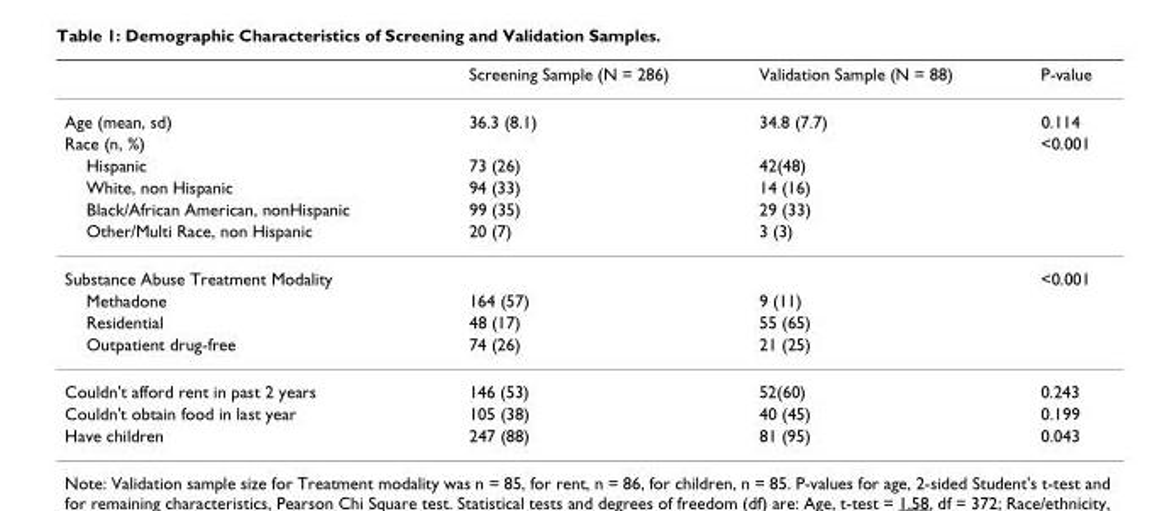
<table><thead><tr><td></td><td>Screening Sample (N = 286)</td><td>Validation Sample (N = 88)</td><td>P-value</td></tr></thead><tbody><tr><td>Age (mean, sd)</td><td>36.3 (8.1)</td><td>34.8 (7.7)</td><td>0.114</td></tr><tr><td>Race (n, %)</td><td></td><td></td><td>&lt;0.001</td></tr><tr><td>Hispanic</td><td>73 (26)</td><td>42(48)</td><td></td></tr><tr><td>White, non Hispanic</td><td>94 (33)</td><td>14 (16)</td><td></td></tr><tr><td>Black/African American, nonHispanic</td><td>99 (35)</td><td>29 (33)</td><td></td></tr><tr><td>Other/Multi Race, non Hispanic</td><td>20 (7)</td><td>3 (3)</td><td></td></tr><tr><td>Substance Abuse Treatment Modality</td><td></td><td></td><td>&lt;0.001</td></tr><tr><td>Methadone</td><td>164 (57)</td><td>9 (11)</td><td></td></tr><tr><td>Residential</td><td>48 (17)</td><td>55 (65)</td><td></td></tr><tr><td>Outpatient drug-free</td><td>74 (26)</td><td>21 (25)</td><td></td></tr><tr><td>Couldn&#x27;t afford rent in past 2 years</td><td>146 (53)</td><td>52(60)</td><td>0.243</td></tr><tr><td>Couldn&#x27;t obtain food in last year</td><td>105 (38)</td><td>40 (45)</td><td>0.199</td></tr><tr><td>Have children</td><td>247 (88)</td><td>81 (95)</td><td>0.043</td></tr></tbody></table>